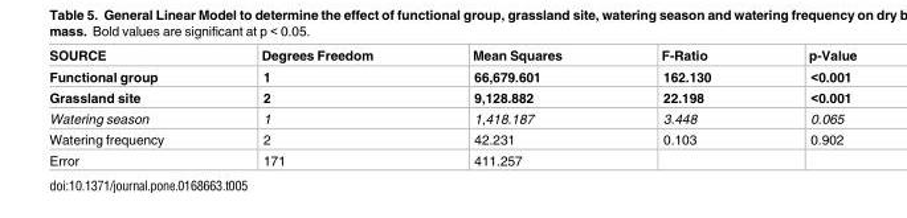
<table><thead><tr><td>SOURCE</td><td>Degrees Freedom</td><td>Mean Squares</td><td>F-Ratio</td><td>p-Value</td></tr></thead><tbody><tr><td>Functional group</td><td>1</td><td>66,679.601</td><td>162.130</td><td>&lt;0.001</td></tr><tr><td>Grassland site</td><td>2</td><td>9,128.882</td><td>22.198</td><td>&lt;0.001</td></tr><tr><td>Watering season</td><td>1</td><td>1,418.187</td><td>3.448</td><td>0.065</td></tr><tr><td>Watering frequency</td><td>2</td><td>42.231</td><td>0.103</td><td>0.902</td></tr><tr><td>Error</td><td>171</td><td>411.257</td><td></td><td></td></tr></tbody></table>